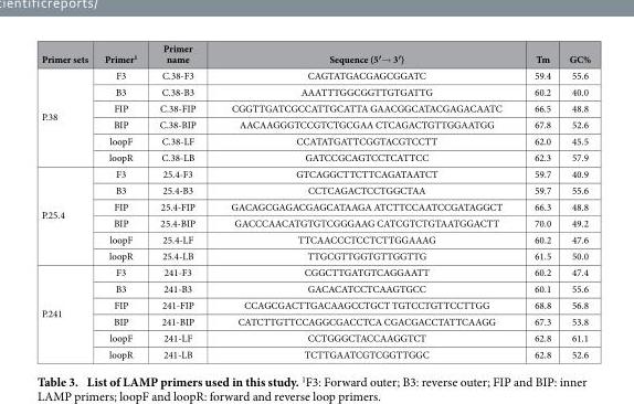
<table><thead><tr><td>Primer sets</td><td>Primer<sup>1</sup></td><td>Primer name</td><td>Sequence (5′→ 3′)</td><td>Tm</td><td>GC%</td></tr></thead><tbody><tr><td rowspan="6">P.38</td><td>F3</td><td>C.38-F3</td><td>CAGTATGACGAGCGGATC</td><td>59.4</td><td>55.6</td></tr><tr><td>B3</td><td>C.38-B3</td><td>AAATTTGGCGGTTGTGATTG</td><td>60.2</td><td>40.0</td></tr><tr><td>FIP</td><td>C.38-FIP</td><td>CGGTTGATCGCCATTGCATTA GAACGGCATACGAGACAATC</td><td>66.5</td><td>48.8</td></tr><tr><td>BIP</td><td>C.38-BIP</td><td>AACAAGGGTCCGTCTGCGAA CTCAGACTGTTGGAATGG</td><td>67.8</td><td>52.6</td></tr><tr><td>loopF</td><td>C.38-LF</td><td>CCATATGATTCGGTACGTCCTT</td><td>62.0</td><td>45.5</td></tr><tr><td>loopR</td><td>C.38-LB</td><td>GATCCGCAGTCCTCATTCC</td><td>62.3</td><td>57.9</td></tr><tr><td rowspan="6">P.25.4</td><td>F3</td><td>25.4-F3</td><td>GTCAGGCTTCTTCAGATAATCT</td><td>59.7</td><td>40.9</td></tr><tr><td>B3</td><td>25.4-B3</td><td>CCTCAGACTCCTGGCTAA</td><td>59.7</td><td>55.6</td></tr><tr><td>FIP</td><td>25.4-FIP</td><td>GACAGCGAGACGAGCATAAGA ATCTTCCAATCCGATAGGCT</td><td>66.3</td><td>48.8</td></tr><tr><td>BIP</td><td>25.4-BIP</td><td>GACCCAACATGTGTCGGGAAG CATCGTCTGTAATGGACTT</td><td>70.0</td><td>49.2</td></tr><tr><td>loopF</td><td>25.4-LF</td><td>TTCAACCCTCCTCTTGGAAAG</td><td>60.2</td><td>47.6</td></tr><tr><td>loopR</td><td>25.4-LB</td><td>TTGCGTTGGTGTTGGTTG</td><td>61.5</td><td>50.0</td></tr><tr><td rowspan="6">P.241</td><td>F3</td><td>241-F3</td><td>CGGCTTGATGTCAGGAATT</td><td>60.2</td><td>47.4</td></tr><tr><td>B3</td><td>241-B3</td><td>GACACATCCTCAAGTGCC</td><td>60.1</td><td>55.6</td></tr><tr><td>FIP</td><td>241-FIP</td><td>CCAGCGACTTGACAAGCCTGCT TGTCCTGTTCCTTGG</td><td>68.8</td><td>56.8</td></tr><tr><td>BIP</td><td>241-BIP</td><td>CATCTTGTTCCAGGCGACCTCA CGACGACCTATTCAAGG</td><td>67.3</td><td>53.8</td></tr><tr><td>loopF</td><td>241-LF</td><td>CCTGGGCTACCAAGGTCT</td><td>62.8</td><td>61.1</td></tr><tr><td>loopR</td><td>241-LB</td><td>TCTTGAATCGTCGGTTGGC</td><td>62.8</td><td>52.6</td></tr></tbody></table>